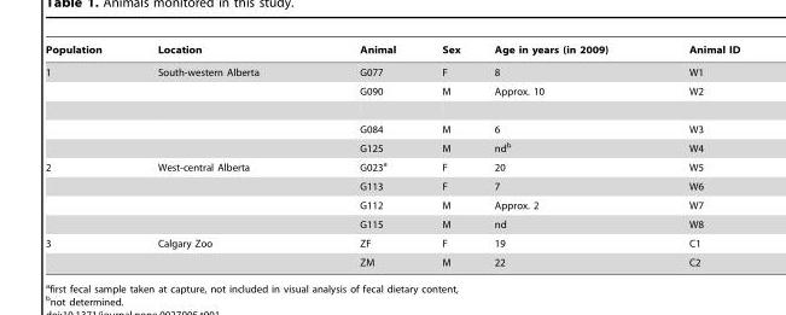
<table><thead><tr><td>Population</td><td>Location</td><td>Animal</td><td>Sex</td><td>Age in years (in 2009)</td><td>Animal ID</td></tr></thead><tbody><tr><td rowspan="4">1</td><td>South-western Alberta</td><td>G077</td><td>F</td><td>8</td><td>W1</td></tr><tr><td></td><td>G090</td><td>M</td><td>Approx. 10</td><td>W2</td></tr><tr><td></td><td>G084</td><td>M</td><td>6</td><td>W3</td></tr><tr><td></td><td>G125</td><td>M</td><td>nd<sup>b</sup></td><td>W4</td></tr><tr><td rowspan="4">2</td><td>West-central Alberta</td><td>G023<sup>a</sup></td><td>F</td><td>20</td><td>W5</td></tr><tr><td></td><td>G113</td><td>F</td><td>7</td><td>W6</td></tr><tr><td></td><td>G112</td><td>M</td><td>Approx. 2</td><td>W7</td></tr><tr><td></td><td>G115</td><td>M</td><td>nd</td><td>W8</td></tr><tr><td rowspan="2">3</td><td>Calgary Zoo</td><td>ZF</td><td>F</td><td>19</td><td>C1</td></tr><tr><td></td><td>ZM</td><td>M</td><td>22</td><td>C2</td></tr></tbody></table>